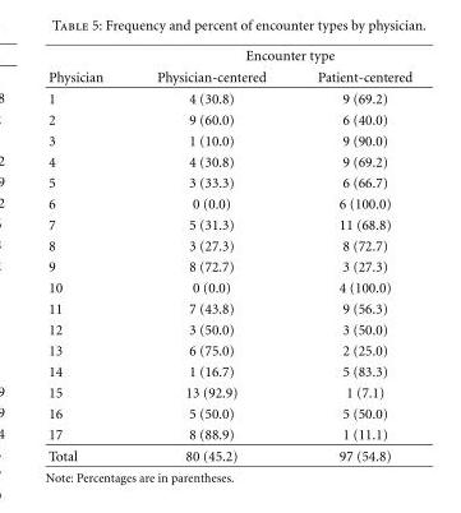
<table><thead><tr><td rowspan="2">Physician</td><td colspan="2">Encounter type</td></tr><tr><td>Physician-centered</td><td>Patient-centered</td></tr></thead><tbody><tr><td>1</td><td>4 (30.8)</td><td>9 (69.2)</td></tr><tr><td>2</td><td>9 (60.0)</td><td>6 (40.0)</td></tr><tr><td>3</td><td>1 (10.0)</td><td>9 (90.0)</td></tr><tr><td>4</td><td>4 (30.8)</td><td>9 (69.2)</td></tr><tr><td>5</td><td>3 (33.3)</td><td>6 (66.7)</td></tr><tr><td>6</td><td>0 (0.0)</td><td>6 (100.0)</td></tr><tr><td>7</td><td>5 (31.3)</td><td>11 (68.8)</td></tr><tr><td>8</td><td>3 (27.3)</td><td>8 (72.7)</td></tr><tr><td>9</td><td>8 (72.7)</td><td>3 (27.3)</td></tr><tr><td>10</td><td>0 (0.0)</td><td>4 (100.0)</td></tr><tr><td>11</td><td>7 (43.8)</td><td>9 (56.3)</td></tr><tr><td>12</td><td>3 (50.0)</td><td>3 (50.0)</td></tr><tr><td>13</td><td>6 (75.0)</td><td>2 (25.0)</td></tr><tr><td>14</td><td>1 (16.7)</td><td>5 (83.3)</td></tr><tr><td>15</td><td>13 (92.9)</td><td>1 (7.1)</td></tr><tr><td>16</td><td>5 (50.0)</td><td>5 (50.0)</td></tr><tr><td>17</td><td>8 (88.9)</td><td>1 (11.1)</td></tr><tr><td>Total</td><td>80 (45.2)</td><td>97 (54.8)</td></tr></tbody></table>